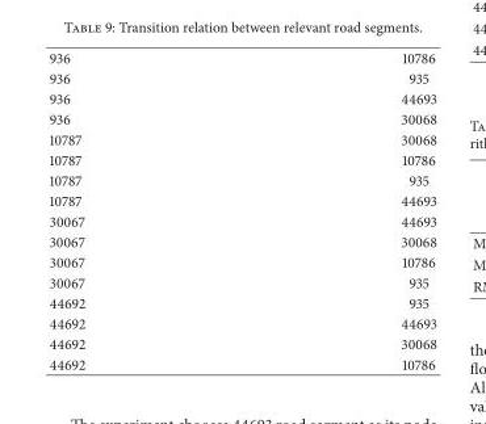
<table><tbody><tr><td>936</td><td>10786</td></tr><tr><td>936</td><td>935</td></tr><tr><td>936</td><td>44693</td></tr><tr><td>936</td><td>30068</td></tr><tr><td>10787</td><td>30068</td></tr><tr><td>10787</td><td>10786</td></tr><tr><td>10787</td><td>935</td></tr><tr><td>10787</td><td>44693</td></tr><tr><td>30067</td><td>44693</td></tr><tr><td>30067</td><td>30068</td></tr><tr><td>30067</td><td>10786</td></tr><tr><td>30067</td><td>935</td></tr><tr><td>44692</td><td>935</td></tr><tr><td>44692</td><td>44693</td></tr><tr><td>44692</td><td>30068</td></tr><tr><td>44692</td><td>10786</td></tr></tbody></table>